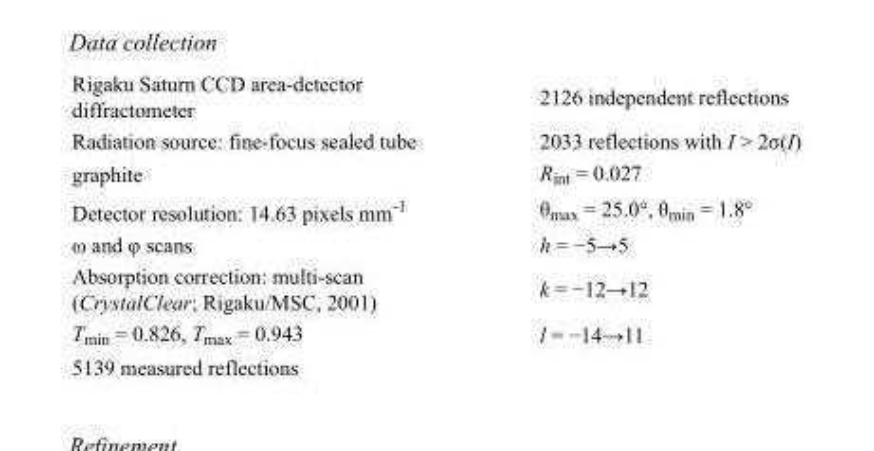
<table><tbody><tr><td>Rigaku Saturn CCD area-detector diffractometer</td><td>2126 independent reflections</td></tr><tr><td>Radiation source: fine-focus sealed tube</td><td>2033 reflections with I &gt; 2σ(I)</td></tr><tr><td>graphite</td><td>R<sub>int</sub> = 0.027</td></tr><tr><td>Detector resolution: 14.63 pixels mm<sup>-1</sup></td><td>θ<sub>max</sub> = 25.0°, θ<sub>min</sub> = 1.8°</td></tr><tr><td>ω and φ scans</td><td>h = −5→5</td></tr><tr><td>Absorption correction: multi-scan (CrystalClear; Rigaku/MSC, 2001)</td><td>k = −12→12</td></tr><tr><td>T<sub>min</sub> = 0.826, T<sub>max</sub> = 0.943</td><td>l = −14→11</td></tr><tr><td>5139 measured reflections</td><td></td></tr></tbody></table>